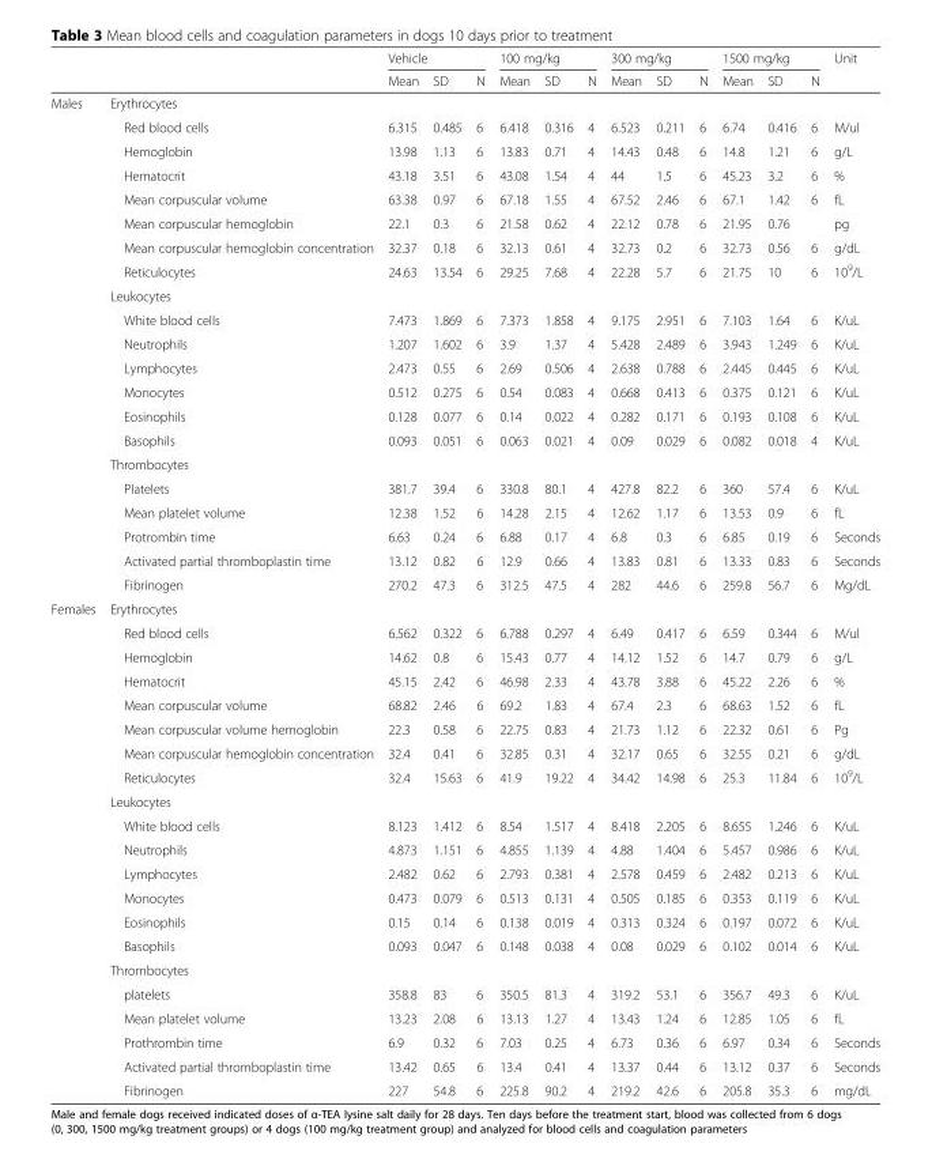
<table><thead><tr><td rowspan="2"></td><td rowspan="2"></td><td colspan="3">Vehicle</td><td colspan="3">100 mg/kg</td><td colspan="3">300 mg/kg</td><td colspan="3">1500 mg/kg</td><td rowspan="2">Unit</td></tr><tr><td>Mean</td><td>SD</td><td>N</td><td>Mean</td><td>SD</td><td>N</td><td>Mean</td><td>SD</td><td>N</td><td>Mean</td><td>SD</td><td>N</td></tr></thead><tbody><tr><td rowspan="21">Males</td><td>Erythrocytes</td><td></td><td></td><td></td><td></td><td></td><td></td><td></td><td></td><td></td><td></td><td></td><td></td><td></td></tr><tr><td>Red blood cells</td><td>6.315</td><td>0.485</td><td>6</td><td>6.418</td><td>0.316</td><td>4</td><td>6.523</td><td>0.211</td><td>6</td><td>6.74</td><td>0.416</td><td>6</td><td>M/ul</td></tr><tr><td>Hemoglobin</td><td>13.98</td><td>1.13</td><td>6</td><td>13.83</td><td>0.71</td><td>4</td><td>14.43</td><td>0.48</td><td>6</td><td>14.8</td><td>1.21</td><td>6</td><td>g/L</td></tr><tr><td>Hematocrit</td><td>43.18</td><td>3.51</td><td>6</td><td>43.08</td><td>1.54</td><td>4</td><td>44</td><td>1.5</td><td>6</td><td>45.23</td><td>3.2</td><td>6</td><td>%</td></tr><tr><td>Mean corpuscular volume</td><td>63.38</td><td>0.97</td><td>6</td><td>67.18</td><td>1.55</td><td>4</td><td>67.52</td><td>2.46</td><td>6</td><td>67.1</td><td>1.42</td><td>6</td><td>fL</td></tr><tr><td>Mean corpuscular hemoglobin</td><td>22.1</td><td>0.3</td><td>6</td><td>21.58</td><td>0.62</td><td>4</td><td>22.12</td><td>0.78</td><td>6</td><td>21.95</td><td>0.76</td><td></td><td>pg</td></tr><tr><td>Mean corpuscular hemoglobin concentration</td><td>32.37</td><td>0.18</td><td>6</td><td>32.13</td><td>0.61</td><td>4</td><td>32.73</td><td>0.2</td><td>6</td><td>32.73</td><td>0.56</td><td>6</td><td>g/dL</td></tr><tr><td>Reticulocytes</td><td>24.63</td><td>13.54</td><td>6</td><td>29.25</td><td>7.68</td><td>4</td><td>22.28</td><td>5.7</td><td>6</td><td>21.75</td><td>10</td><td>6</td><td>10<sup>9</sup>/L</td></tr><tr><td>Leukocytes</td><td></td><td></td><td></td><td></td><td></td><td></td><td></td><td></td><td></td><td></td><td></td><td></td><td></td></tr><tr><td>White blood cells</td><td>7.473</td><td>1.869</td><td>6</td><td>7.373</td><td>1.858</td><td>4</td><td>9.175</td><td>2.951</td><td>6</td><td>7.103</td><td>1.64</td><td>6</td><td>K/uL</td></tr><tr><td>Neutrophils</td><td>1.207</td><td>1.602</td><td>6</td><td>3.9</td><td>1.37</td><td>4</td><td>5.428</td><td>2.489</td><td>6</td><td>3.943</td><td>1.249</td><td>6</td><td>K/uL</td></tr><tr><td>Lymphocytes</td><td>2.473</td><td>0.55</td><td>6</td><td>2.69</td><td>0.506</td><td>4</td><td>2.638</td><td>0.788</td><td>6</td><td>2.445</td><td>0.445</td><td>6</td><td>K/uL</td></tr><tr><td>Monocytes</td><td>0.512</td><td>0.275</td><td>6</td><td>0.54</td><td>0.083</td><td>4</td><td>0.668</td><td>0.413</td><td>6</td><td>0.375</td><td>0.121</td><td>6</td><td>K/uL</td></tr><tr><td>Eosinophils</td><td>0.128</td><td>0.077</td><td>6</td><td>0.14</td><td>0.022</td><td>4</td><td>0.282</td><td>0.171</td><td>6</td><td>0.193</td><td>0.108</td><td>6</td><td>K/uL</td></tr><tr><td>Basophils</td><td>0.093</td><td>0.051</td><td>6</td><td>0.063</td><td>0.021</td><td>4</td><td>0.09</td><td>0.029</td><td>6</td><td>0.082</td><td>0.018</td><td>4</td><td>K/uL</td></tr><tr><td>Thrombocytes</td><td></td><td></td><td></td><td></td><td></td><td></td><td></td><td></td><td></td><td></td><td></td><td></td><td></td></tr><tr><td>Platelets</td><td>381.7</td><td>39.4</td><td>6</td><td>330.8</td><td>80.1</td><td>4</td><td>427.8</td><td>82.2</td><td>6</td><td>360</td><td>57.4</td><td>6</td><td>K/uL</td></tr><tr><td>Mean platelet volume</td><td>12.38</td><td>1.52</td><td>6</td><td>14.28</td><td>2.15</td><td>4</td><td>12.62</td><td>1.17</td><td>6</td><td>13.53</td><td>0.9</td><td>6</td><td>fL</td></tr><tr><td>Protrombin time</td><td>6.63</td><td>0.24</td><td>6</td><td>6.88</td><td>0.17</td><td>4</td><td>6.8</td><td>0.3</td><td>6</td><td>6.85</td><td>0.19</td><td>6</td><td>Seconds</td></tr><tr><td>Activated partial thromboplastin time</td><td>13.12</td><td>0.82</td><td>6</td><td>12.9</td><td>0.66</td><td>4</td><td>13.83</td><td>0.81</td><td>6</td><td>13.33</td><td>0.83</td><td>6</td><td>Seconds</td></tr><tr><td>Fibrinogen</td><td>270.2</td><td>47.3</td><td>6</td><td>312.5</td><td>47.5</td><td>4</td><td>282</td><td>44.6</td><td>6</td><td>259.8</td><td>56.7</td><td>6</td><td>Mg/dL</td></tr><tr><td rowspan="21">Females</td><td>Erythrocytes</td><td></td><td></td><td></td><td></td><td></td><td></td><td></td><td></td><td></td><td></td><td></td><td></td><td></td></tr><tr><td>Red blood cells</td><td>6.562</td><td>0.322</td><td>6</td><td>6.788</td><td>0.297</td><td>4</td><td>6.49</td><td>0.417</td><td>6</td><td>6.59</td><td>0.344</td><td>6</td><td>M/ul</td></tr><tr><td>Hemoglobin</td><td>14.62</td><td>0.8</td><td>6</td><td>15.43</td><td>0.77</td><td>4</td><td>14.12</td><td>1.52</td><td>6</td><td>14.7</td><td>0.79</td><td>6</td><td>g/L</td></tr><tr><td>Hematocrit</td><td>45.15</td><td>2.42</td><td>6</td><td>46.98</td><td>2.33</td><td>4</td><td>43.78</td><td>3.88</td><td>6</td><td>45.22</td><td>2.26</td><td>6</td><td>%</td></tr><tr><td>Mean corpuscular volume</td><td>68.82</td><td>2.46</td><td>6</td><td>69.2</td><td>1.83</td><td>4</td><td>67.4</td><td>2.3</td><td>6</td><td>68.63</td><td>1.52</td><td>6</td><td>fL</td></tr><tr><td>Mean corpuscular volume hemoglobin</td><td>22.3</td><td>0.58</td><td>6</td><td>22.75</td><td>0.83</td><td>4</td><td>21.73</td><td>1.12</td><td>6</td><td>22.32</td><td>0.61</td><td>6</td><td>Pg</td></tr><tr><td>Mean corpuscular hemoglobin concentration</td><td>32.4</td><td>0.41</td><td>6</td><td>32.85</td><td>0.31</td><td>4</td><td>32.17</td><td>0.65</td><td>6</td><td>32.55</td><td>0.21</td><td>6</td><td>g/dL</td></tr><tr><td>Reticulocytes</td><td>32.4</td><td>15.63</td><td>6</td><td>41.9</td><td>19.22</td><td>4</td><td>34.42</td><td>14.98</td><td>6</td><td>25.3</td><td>11.84</td><td>6</td><td>10<sup>9</sup>/L</td></tr><tr><td>Leukocytes</td><td></td><td></td><td></td><td></td><td></td><td></td><td></td><td></td><td></td><td></td><td></td><td></td><td></td></tr><tr><td>White blood cells</td><td>8.123</td><td>1.412</td><td>6</td><td>8.54</td><td>1.517</td><td>4</td><td>8.418</td><td>2.205</td><td>6</td><td>8.655</td><td>1.246</td><td>6</td><td>K/uL</td></tr><tr><td>Neutrophils</td><td>4.873</td><td>1.151</td><td>6</td><td>4.855</td><td>1.139</td><td>4</td><td>4.88</td><td>1.404</td><td>6</td><td>5.457</td><td>0.986</td><td>6</td><td>K/uL</td></tr><tr><td>Lymphocytes</td><td>2.482</td><td>0.62</td><td>6</td><td>2.793</td><td>0.381</td><td>4</td><td>2.578</td><td>0.459</td><td>6</td><td>2.482</td><td>0.213</td><td>6</td><td>K/uL</td></tr><tr><td>Monocytes</td><td>0.473</td><td>0.079</td><td>6</td><td>0.513</td><td>0.131</td><td>4</td><td>0.505</td><td>0.185</td><td>6</td><td>0.353</td><td>0.119</td><td>6</td><td>K/uL</td></tr><tr><td>Eosinophils</td><td>0.15</td><td>0.14</td><td>6</td><td>0.138</td><td>0.019</td><td>4</td><td>0.313</td><td>0.324</td><td>6</td><td>0.197</td><td>0.072</td><td>6</td><td>K/uL</td></tr><tr><td>Basophils</td><td>0.093</td><td>0.047</td><td>6</td><td>0.148</td><td>0.038</td><td>4</td><td>0.08</td><td>0.029</td><td>6</td><td>0.102</td><td>0.014</td><td>6</td><td>K/uL</td></tr><tr><td>Thrombocytes</td><td></td><td></td><td></td><td></td><td></td><td></td><td></td><td></td><td></td><td></td><td></td><td></td><td></td></tr><tr><td>platelets</td><td>358.8</td><td>83</td><td>6</td><td>350.5</td><td>81.3</td><td>4</td><td>319.2</td><td>53.1</td><td>6</td><td>356.7</td><td>49.3</td><td>6</td><td>K/uL</td></tr><tr><td>Mean platelet volume</td><td>13.23</td><td>2.08</td><td>6</td><td>13.13</td><td>1.27</td><td>4</td><td>13.43</td><td>1.24</td><td>6</td><td>12.85</td><td>1.05</td><td>6</td><td>fL</td></tr><tr><td>Prothrombin time</td><td>6.9</td><td>0.32</td><td>6</td><td>7.03</td><td>0.25</td><td>4</td><td>6.73</td><td>0.36</td><td>6</td><td>6.97</td><td>0.34</td><td>6</td><td>Seconds</td></tr><tr><td>Activated partial thromboplastin time</td><td>13.42</td><td>0.65</td><td>6</td><td>13.4</td><td>0.41</td><td>4</td><td>13.37</td><td>0.44</td><td>6</td><td>13.12</td><td>0.37</td><td>6</td><td>Seconds</td></tr><tr><td>Fibrinogen</td><td>227</td><td>54.8</td><td>6</td><td>225.8</td><td>90.2</td><td>4</td><td>219.2</td><td>42.6</td><td>6</td><td>205.8</td><td>35.3</td><td>6</td><td>mg/dL</td></tr></tbody></table>